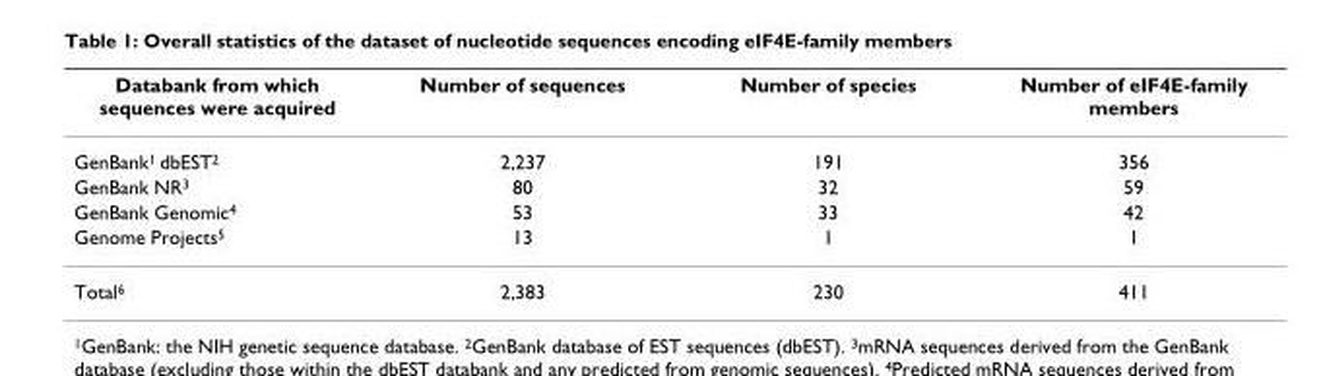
<table><thead><tr><td>Databank from which sequences were acquired</td><td>Number of sequences</td><td>Number of species</td><td>Number of eIF4E-family members</td></tr></thead><tbody><tr><td>GenBank<sup>1</sup> dbEST<sup>2</sup></td><td>2,237</td><td>191</td><td>356</td></tr><tr><td>GenBank NR<sup>3</sup></td><td>80</td><td>32</td><td>59</td></tr><tr><td>GenBank Genomic<sup>4</sup></td><td>53</td><td>33</td><td>42</td></tr><tr><td>Genome Projects<sup>5</sup></td><td>13</td><td>1</td><td>1</td></tr><tr><td>Total<sup>6</sup></td><td>2,383</td><td>230</td><td>411</td></tr></tbody></table>